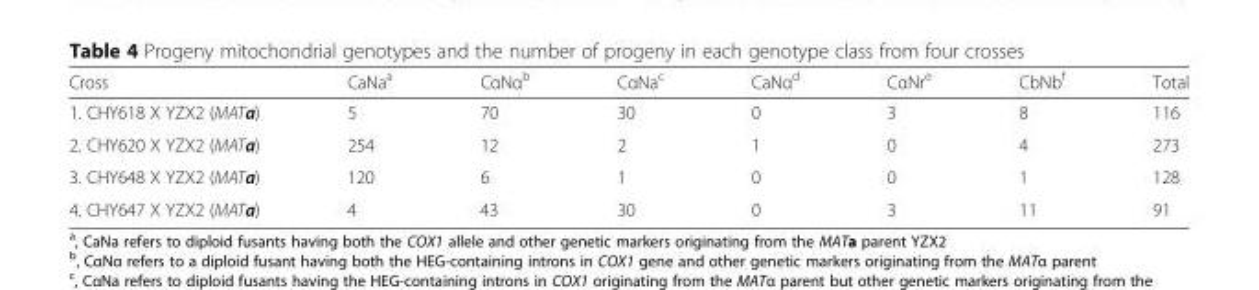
<table><thead><tr><td>Cross</td><td>CaNa<sup>a</sup></td><td>CαNα<sup>b</sup></td><td>CαNa<sup>c</sup></td><td>CaNα<sup>d</sup></td><td>CαNr<sup>e</sup></td><td>CbNb<sup>f</sup></td><td>Total</td></tr></thead><tbody><tr><td>1. CHY618 X YZX2 (MATa)</td><td>5</td><td>70</td><td>30</td><td>0</td><td>3</td><td>8</td><td>116</td></tr><tr><td>2. CHY620 X YZX2 (MATa)</td><td>254</td><td>12</td><td>2</td><td>1</td><td>0</td><td>4</td><td>273</td></tr><tr><td>3. CHY648 X YZX2 (MATa)</td><td>120</td><td>6</td><td>1</td><td>0</td><td>0</td><td>1</td><td>128</td></tr><tr><td>4. CHY647 X YZX2 (MATa)</td><td>4</td><td>43</td><td>30</td><td>0</td><td>3</td><td>11</td><td>91</td></tr></tbody></table>